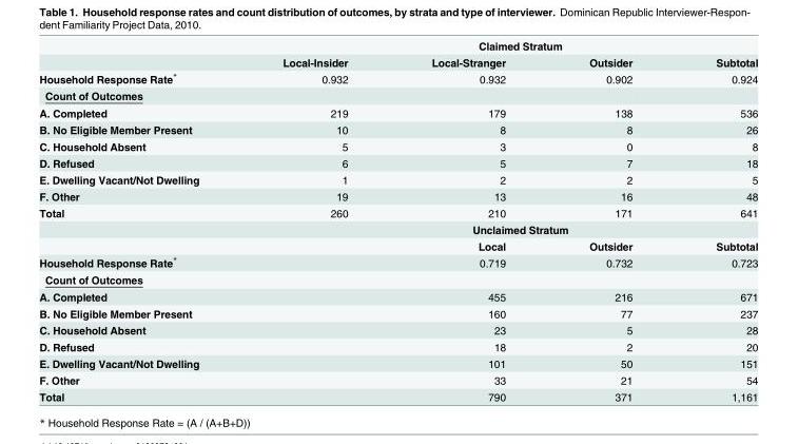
<table><thead><tr><td rowspan="2"></td><td colspan="4">Claimed Stratum</td></tr><tr><td>Local-Insider</td><td>Local-Stranger</td><td>Outsider</td><td>Subtotal</td></tr></thead><tbody><tr><td>Household Response Rate*</td><td>0.932</td><td>0.932</td><td>0.902</td><td>0.924</td></tr><tr><td colspan="5">Count of Outcomes</td></tr><tr><td>A. Completed</td><td>219</td><td>179</td><td>138</td><td>536</td></tr><tr><td>B. No Eligible Member Present</td><td>10</td><td>8</td><td>8</td><td>26</td></tr><tr><td>C. Household Absent</td><td>5</td><td>3</td><td>0</td><td>8</td></tr><tr><td>D. Refused</td><td>6</td><td>5</td><td>7</td><td>18</td></tr><tr><td>E. Dwelling Vacant/Not Dwelling</td><td>1</td><td>2</td><td>2</td><td>5</td></tr><tr><td>F. Other</td><td>19</td><td>13</td><td>16</td><td>48</td></tr><tr><td rowspan="3">Total</td><td>260</td><td>210</td><td>171</td><td>641</td></tr><tr><td colspan="4">Unclaimed Stratum</td></tr><tr><td colspan="2">Local</td><td>Outsider</td><td>Subtotal</td></tr><tr><td>Household Response Rate*</td><td colspan="2">0.719</td><td>0.732</td><td>0.723</td></tr><tr><td colspan="5">Count of Outcomes</td></tr><tr><td>A. Completed</td><td colspan="2">455</td><td>216</td><td>671</td></tr><tr><td>B. No Eligible Member Present</td><td colspan="2">160</td><td>77</td><td>237</td></tr><tr><td>C. Household Absent</td><td colspan="2">23</td><td>5</td><td>28</td></tr><tr><td>D. Refused</td><td colspan="2">18</td><td>2</td><td>20</td></tr><tr><td>E. Dwelling Vacant/Not Dwelling</td><td colspan="2">101</td><td>50</td><td>151</td></tr><tr><td>F. Other</td><td colspan="2">33</td><td>21</td><td>54</td></tr><tr><td>Total</td><td colspan="2">790</td><td>371</td><td>1,161</td></tr></tbody></table>